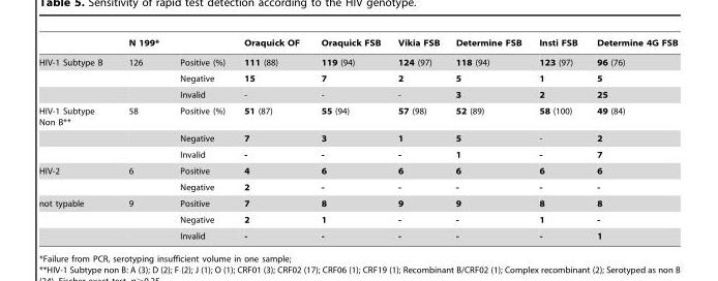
<table><thead><tr><td></td><td>N 199*</td><td></td><td>Oraquick OF</td><td>Oraquick FSB</td><td>Vikia FSB</td><td>Determine FSB</td><td>Insti FSB</td><td>Determine 4G FSB</td></tr></thead><tbody><tr><td rowspan="3">HIV-1 Subtype B</td><td>126</td><td>Positive (%)</td><td>111 (88)</td><td>119 (94)</td><td>124 (97)</td><td>118 (94)</td><td>123 (97)</td><td>96 (76)</td></tr><tr><td></td><td>Negative</td><td>15</td><td>7</td><td>2</td><td>5</td><td>1</td><td>5</td></tr><tr><td></td><td>Invalid</td><td>-</td><td>-</td><td>-</td><td>3</td><td>2</td><td>25</td></tr><tr><td rowspan="3">HIV-1 Subtype Non B**</td><td>58</td><td>Positive (%)</td><td>51 (87)</td><td>55 (94)</td><td>57 (98)</td><td>52 (89)</td><td>58 (100)</td><td>49 (84)</td></tr><tr><td></td><td>Negative</td><td>7</td><td>3</td><td>1</td><td>5</td><td>-</td><td>2</td></tr><tr><td></td><td>Invalid</td><td>-</td><td>-</td><td>-</td><td>1</td><td>-</td><td>7</td></tr><tr><td rowspan="2">HIV-2</td><td>6</td><td>Positive</td><td>4</td><td>6</td><td>6</td><td>6</td><td>6</td><td>6</td></tr><tr><td></td><td>Negative</td><td>2</td><td>-</td><td>-</td><td>-</td><td>-</td><td>-</td></tr><tr><td rowspan="3">not typable</td><td>9</td><td>Positive</td><td>7</td><td>8</td><td>9</td><td>9</td><td>8</td><td>8</td></tr><tr><td></td><td>Negative</td><td>2</td><td>1</td><td>-</td><td>-</td><td>1</td><td>-</td></tr><tr><td></td><td>Invalid</td><td>-</td><td>-</td><td>-</td><td>-</td><td>-</td><td>1</td></tr></tbody></table>